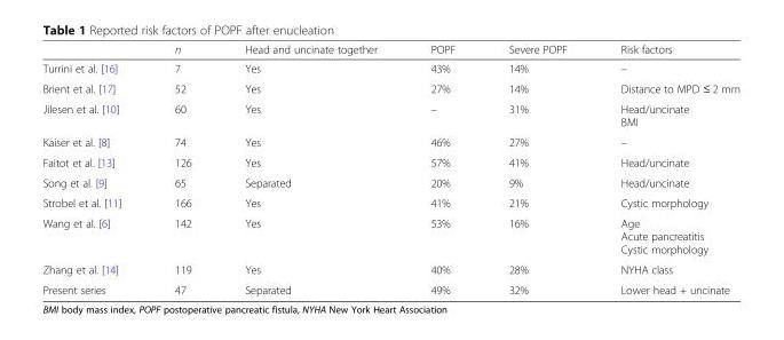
<table><thead><tr><td></td><td>n</td><td>Head and uncinate together</td><td>POPF</td><td>Severe POPF</td><td>Risk factors</td></tr></thead><tbody><tr><td>Turrini et al. [16]</td><td>7</td><td>Yes</td><td>43%</td><td>14%</td><td>–</td></tr><tr><td>Brient et al. [17]</td><td>52</td><td>Yes</td><td>27%</td><td>14%</td><td>Distance to MPD ≤ 2 mm</td></tr><tr><td>Jilesen et al. [10]</td><td>60</td><td>Yes</td><td>–</td><td>31%</td><td>Head/uncinate BMI</td></tr><tr><td>Kaiser et al. [8]</td><td>74</td><td>Yes</td><td>46%</td><td>27%</td><td>–</td></tr><tr><td>Faitot et al. [13]</td><td>126</td><td>Yes</td><td>57%</td><td>41%</td><td>Head/uncinate</td></tr><tr><td>Song et al. [9]</td><td>65</td><td>Separated</td><td>20%</td><td>9%</td><td>Head/uncinate</td></tr><tr><td>Strobel et al. [11]</td><td>166</td><td>Yes</td><td>41%</td><td>21%</td><td>Cystic morphology</td></tr><tr><td>Wang et al. [6]</td><td>142</td><td>Yes</td><td>53%</td><td>16%</td><td>Age Acute pancreatitis Cystic morphology</td></tr><tr><td>Zhang et al. [14]</td><td>119</td><td>Yes</td><td>40%</td><td>28%</td><td>NYHA class</td></tr><tr><td>Present series</td><td>47</td><td>Separated</td><td>49%</td><td>32%</td><td>Lower head + uncinate</td></tr></tbody></table>